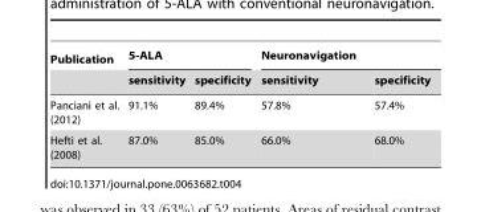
<table><thead><tr><td rowspan="2">Publication</td><td colspan="2">5-ALA</td><td colspan="2">Neuronavigation</td></tr><tr><td>sensitivity</td><td>specificity</td><td>sensitivity</td><td>specificity</td></tr></thead><tbody><tr><td>Panciani et al. (2012)</td><td>91.1%</td><td>89.4%</td><td>57.8%</td><td>57.4%</td></tr><tr><td>Hefti et al. (2008)</td><td>87.0%</td><td>85.0%</td><td>66.0%</td><td>68.0%</td></tr></tbody></table>